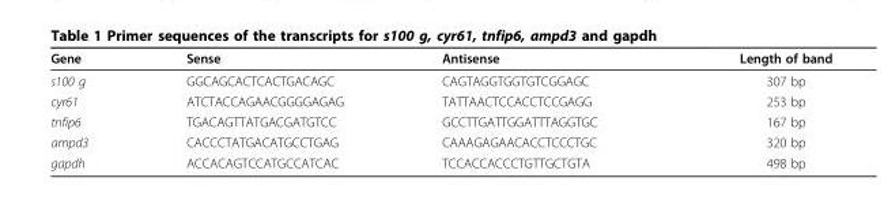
<table><thead><tr><td>Gene</td><td>Sense</td><td>Antisense</td><td>Length of band</td></tr></thead><tbody><tr><td>s100 g</td><td>GGCAGCACTCACTGACAGC</td><td>CAGTAGGTGGTGTCGGAGC</td><td>307 bp</td></tr><tr><td>cyr61</td><td>ATCTACCAGAACGGGGAGAG</td><td>TATTAACTCCACCTCCGAGG</td><td>253 bp</td></tr><tr><td>tnfip6</td><td>TGACAGTTATGACGATGTCC</td><td>GCCTTGATTGGATTTAGGTGC</td><td>167 bp</td></tr><tr><td>ampd3</td><td>CACCCTATGACATGCCTGAG</td><td>CAAAGAGAACACCTCCCTGC</td><td>320 bp</td></tr><tr><td>gapdh</td><td>ACCACAGTCCATGCCATCAC</td><td>TCCACCACCCTGTTGCTGTA</td><td>498 bp</td></tr></tbody></table>